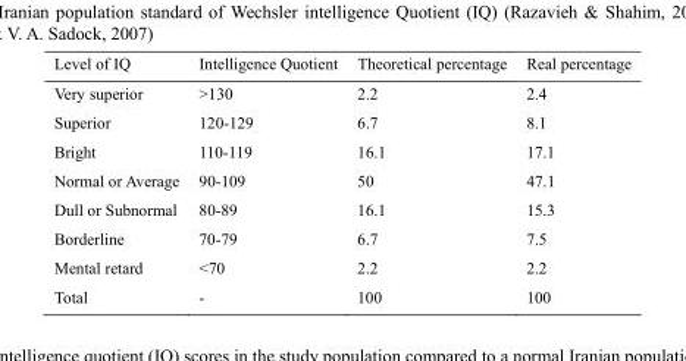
<table><thead><tr><td>Level of IQ</td><td>Intelligence Quotient</td><td>Theoretical percentage</td><td>Real percentage</td></tr></thead><tbody><tr><td>Very superior</td><td>&gt;130</td><td>2.2</td><td>2.4</td></tr><tr><td>Superior</td><td>120-129</td><td>6.7</td><td>8.1</td></tr><tr><td>Bright</td><td>110-119</td><td>16.1</td><td>17.1</td></tr><tr><td>Normal or Average</td><td>90-109</td><td>50</td><td>47.1</td></tr><tr><td>Dull or Subnormal</td><td>80-89</td><td>16.1</td><td>15.3</td></tr><tr><td>Borderline</td><td>70-79</td><td>6.7</td><td>7.5</td></tr><tr><td>Mental retard</td><td>&lt;70</td><td>2.2</td><td>2.2</td></tr><tr><td>Total</td><td>-</td><td>100</td><td>100</td></tr></tbody></table>